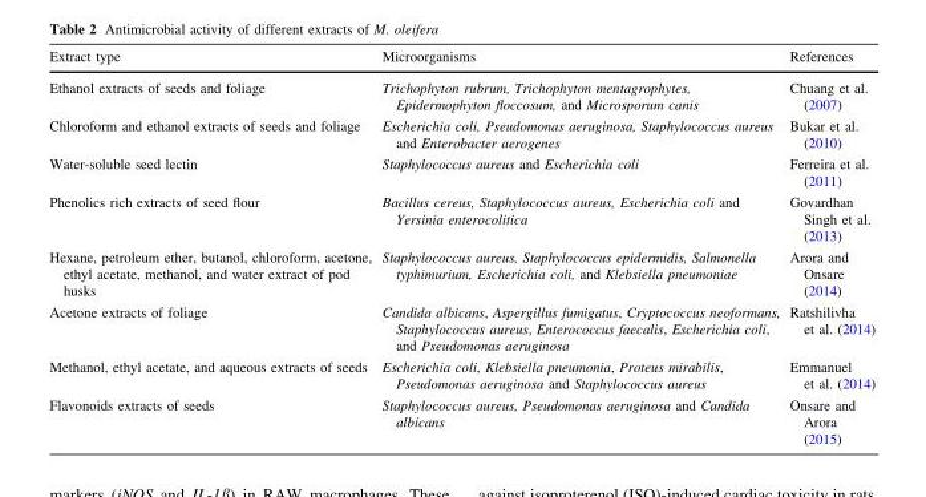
<table><thead><tr><td>Extract type</td><td>Microorganisms</td><td>References</td></tr></thead><tbody><tr><td>Ethanol extracts of seeds and foliage</td><td>Trichophyton rubrum, Trichophyton mentagrophytes, Epidermophyton floccosum, and Microsporum canis</td><td>Chuang et al. (2007)</td></tr><tr><td>Chloroform and ethanol extracts of seeds and foliage</td><td>Escherichia coli, Pseudomonas aeruginosa, Staphylococcus aureus and Enterobacter aerogenes</td><td>Bukar et al. (2010)</td></tr><tr><td>Water-soluble seed lectin</td><td>Staphylococcus aureus and Escherichia coli</td><td>Ferreira et al. (2011)</td></tr><tr><td>Phenolics rich extracts of seed flour</td><td>Bacillus cereus, Staphylococcus aureus, Escherichia coli and Yersinia enterocolitica</td><td>Govardhan Singh et al. (2013)</td></tr><tr><td>Hexane, petroleum ether, butanol, chloroform, acetone, ethyl acetate, methanol, and water extract of pod husks</td><td>Staphylococcus aureus, Staphylococcus epidermidis, Salmonella typhimurium, Escherichia coli, and Klebsiella pneumoniae</td><td>Arora and Onsare (2014)</td></tr><tr><td>Acetone extracts of foliage</td><td>Candida albicans, Aspergillus fumigatus, Cryptococcus neoformans, Staphylococcus aureus, Enterococcus faecalis, Escherichia coli, and Pseudomonas aeruginosa</td><td>Ratshilivha et al. (2014)</td></tr><tr><td>Methanol, ethyl acetate, and aqueous extracts of seeds</td><td>Escherichia coli, Klebsiella pneumonia, Proteus mirabilis, Pseudomonas aeruginosa and Staphylococcus aureus</td><td>Emmanuel et al. (2014)</td></tr><tr><td>Flavonoids extracts of seeds</td><td>Staphylococcus aureus, Pseudomonas aeruginosa and Candida albicans</td><td>Onsare and Arora (2015)</td></tr></tbody></table>